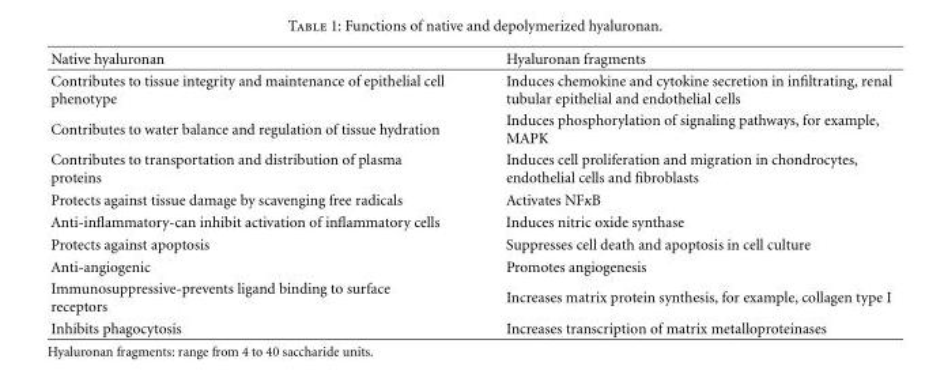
<table><thead><tr><td>Native hyaluronan</td><td>Hyaluronan fragments</td></tr></thead><tbody><tr><td>Contributes to tissue integrity and maintenance of epithelial cell phenotype</td><td>Induces chemokine and cytokine secretion in infiltrating, renal tubular epithelial and endothelial cells</td></tr><tr><td>Contributes to water balance and regulation of tissue hydration</td><td>Induces phosphorylation of signaling pathways, for example, MAPK</td></tr><tr><td>Contributes to transportation and distribution of plasma proteins</td><td>Induces cell proliferation and migration in chondrocytes, endothelial cells and fibroblasts</td></tr><tr><td>Protects against tissue damage by scavenging free radicals</td><td>Activates NFκB</td></tr><tr><td>Anti-inflammatory-can inhibit activation of inflammatory cells</td><td>Induces nitric oxide synthase</td></tr><tr><td>Protects against apoptosis</td><td>Suppresses cell death and apoptosis in cell culture</td></tr><tr><td>Anti-angiogenic</td><td>Promotes angiogenesis</td></tr><tr><td>Immunosuppressive-prevents ligand binding to surface receptors</td><td>Increases matrix protein synthesis, for example, collagen type I</td></tr><tr><td>Inhibits phagocytosis</td><td>Increases transcription of matrix metalloproteinases</td></tr></tbody></table>